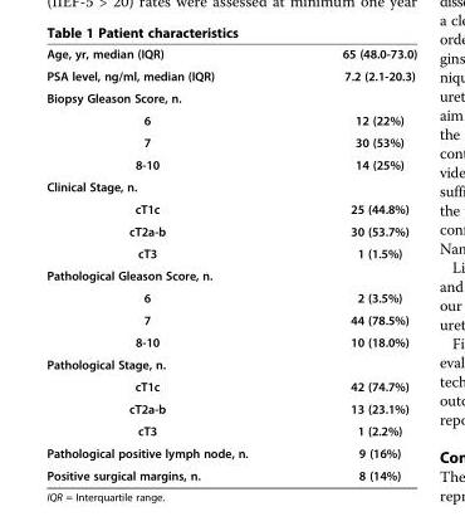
<table><tbody><tr><td>Age, yr, median (IQR)</td><td>65 (48.0-73.0)</td></tr><tr><td>PSA level, ng/ml, median (IQR)</td><td>7.2 (2.1-20.3)</td></tr><tr><td colspan="2">Biopsy Gleason Score, n.</td></tr><tr><td>6</td><td>12 (22%)</td></tr><tr><td>7</td><td>30 (53%)</td></tr><tr><td>8-10</td><td>14 (25%)</td></tr><tr><td colspan="2">Clinical Stage, n.</td></tr><tr><td>cT1c</td><td>25 (44.8%)</td></tr><tr><td>cT2a-b</td><td>30 (53.7%)</td></tr><tr><td>cT3</td><td>1 (1.5%)</td></tr><tr><td colspan="2">Pathological Gleason Score, n.</td></tr><tr><td>6</td><td>2 (3.5%)</td></tr><tr><td>7</td><td>44 (78.5%)</td></tr><tr><td>8-10</td><td>10 (18.0%)</td></tr><tr><td colspan="2">Pathological Stage, n.</td></tr><tr><td>cT1c</td><td>42 (74.7%)</td></tr><tr><td>cT2a-b</td><td>13 (23.1%)</td></tr><tr><td>cT3</td><td>1 (2.2%)</td></tr><tr><td>Pathological positive lymph node, n.</td><td>9 (16%)</td></tr><tr><td>Positive surgical margins, n.</td><td>8 (14%)</td></tr></tbody></table>